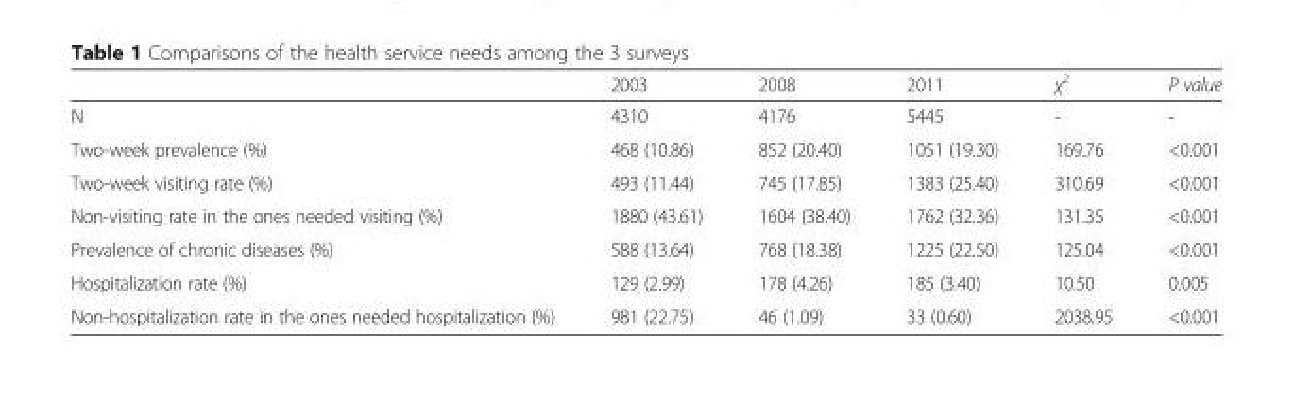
<table><thead><tr><td></td><td>2003</td><td>2008</td><td>2011</td><td>χ<sup>2</sup></td><td>P value</td></tr></thead><tbody><tr><td>N</td><td>4310</td><td>4176</td><td>5445</td><td>-</td><td>-</td></tr><tr><td>Two-week prevalence (%)</td><td>468 (10.86)</td><td>852 (20.40)</td><td>1051 (19.30)</td><td>169.76</td><td>&lt;0.001</td></tr><tr><td>Two-week visiting rate (%)</td><td>493 (11.44)</td><td>745 (17.85)</td><td>1383 (25.40)</td><td>310.69</td><td>&lt;0.001</td></tr><tr><td>Non-visiting rate in the ones needed visiting (%)</td><td>1880 (43.61)</td><td>1604 (38.40)</td><td>1762 (32.36)</td><td>131.35</td><td>&lt;0.001</td></tr><tr><td>Prevalence of chronic diseases (%)</td><td>588 (13.64)</td><td>768 (18.38)</td><td>1225 (22.50)</td><td>125.04</td><td>&lt;0.001</td></tr><tr><td>Hospitalization rate (%)</td><td>129 (2.99)</td><td>178 (4.26)</td><td>185 (3.40)</td><td>10.50</td><td>0.005</td></tr><tr><td>Non-hospitalization rate in the ones needed hospitalization (%)</td><td>981 (22.75)</td><td>46 (1.09)</td><td>33 (0.60)</td><td>2038.95</td><td>&lt;0.001</td></tr></tbody></table>